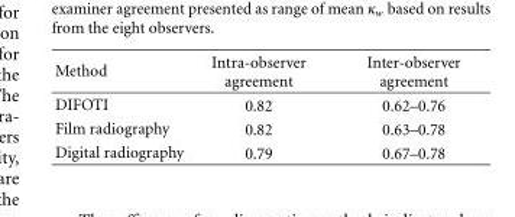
<table><thead><tr><td>Method</td><td>Intra-observer agreement</td><td>Inter-observer agreement</td></tr></thead><tbody><tr><td>DIFOTI</td><td>0.82</td><td>0.62–0.76</td></tr><tr><td>Film radiography</td><td>0.82</td><td>0.63–0.78</td></tr><tr><td>Digital radiography</td><td>0.79</td><td>0.67–0.78</td></tr></tbody></table>